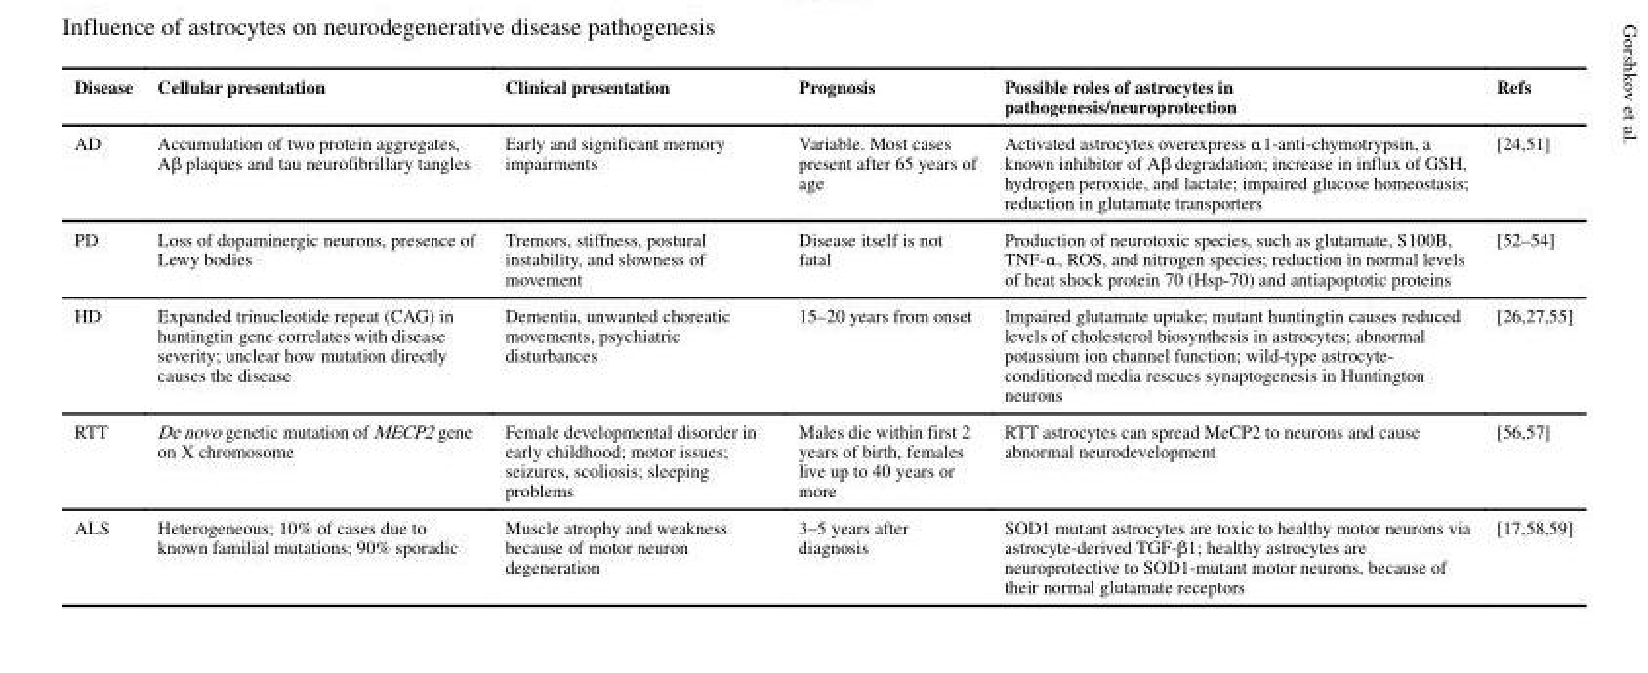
<table><thead><tr><td>Disease</td><td>Cellular presentation</td><td>Clinical presentation</td><td>Prognosis</td><td>Possible roles of astrocytes in pathogenesis/neuroprotection</td><td>Refs</td></tr></thead><tbody><tr><td>AD</td><td>Accumulation of two protein aggregates, Aβ plaques and tau neurofibrillary tangles</td><td>Early and significant memory impairments</td><td>Variable. Most cases present after 65 years of age</td><td>Activated astrocytes overexpress α1-anti-chymotrypsin, a known inhibitor of Aβ degradation; increase in influx of GSH, hydrogen peroxide, and lactate; impaired glucose homeostasis; reduction in glutamate transporters</td><td>[24,51]</td></tr><tr><td>PD</td><td>Loss of dopaminergic neurons, presence of Lewy bodies</td><td>Tremors, stiffness, postural instability, and slowness of movement</td><td>Disease itself is not fatal</td><td>Production of neurotoxic species, such as glutamate, S100B, TNF-α, ROS, and nitrogen species; reduction in normal levels of heat shock protein 70 (Hsp-70) and antiapoptotic proteins</td><td>[52–54]</td></tr><tr><td>HD</td><td>Expanded trinucleotide repeat (CAG) in huntingtin gene correlates with disease severity; unclear how mutation directly causes the disease</td><td>Dementia, unwanted choreatic movements, psychiatric disturbances</td><td>15–20 years from onset</td><td>Impaired glutamate uptake; mutant huntingtin causes reduced levels of cholesterol biosynthesis in astrocytes; abnormal potassium ion channel function; wild-type astrocyte- conditioned media rescues synaptogenesis in Huntington neurons</td><td>[26,27,55]</td></tr><tr><td>RTT</td><td>De novo genetic mutation of MECP2 gene on X chromosome</td><td>Female developmental disorder in early childhood; motor issues; seizures, scoliosis; sleeping problems</td><td>Males die within first 2 years of birth, females live up to 40 years or more</td><td>RTT astrocytes can spread MeCP2 to neurons and cause abnormal neurodevelopment</td><td>[56,57]</td></tr><tr><td>ALS</td><td>Heterogeneous; 10% of cases due to known familial mutations; 90% sporadic</td><td>Muscle atrophy and weakness because of motor neuron degeneration</td><td>3–5 years after diagnosis</td><td>SOD1 mutant astrocytes are toxic to healthy motor neurons via astrocyte-derived TGF-β1; healthy astrocytes are neuroprotective to SOD1-mutant motor neurons, because of their normal glutamate receptors</td><td>[17,58,59]</td></tr></tbody></table>